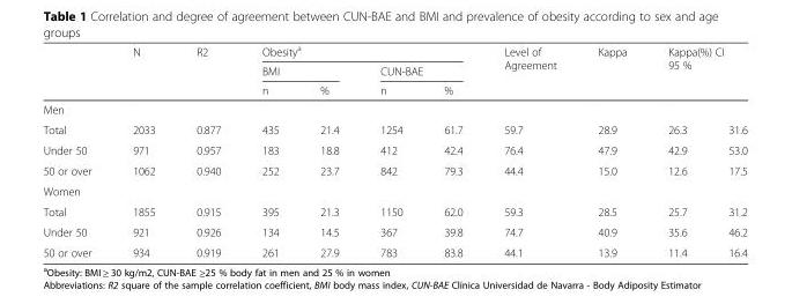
<table><thead><tr><td rowspan="3"></td><td rowspan="3">N</td><td rowspan="3">R2</td><td colspan="4">Obesity<sup>a</sup></td><td rowspan="3">Level of Agreement</td><td rowspan="3">Kappa</td><td rowspan="3" colspan="2">Kappa(%) CI 95 %</td></tr><tr><td colspan="2">BMI</td><td colspan="2">CUN-BAE</td></tr><tr><td>n</td><td>%</td><td>n</td><td>%</td></tr><tr><td colspan="11">Men</td></tr><tr><td>Total</td><td>2033</td><td>0.877</td><td>435</td><td>21.4</td><td>1254</td><td>61.7</td><td>59.7</td><td>28.9</td><td>26.3</td><td>31.6</td></tr></thead><tbody><tr><td>Under 50</td><td>971</td><td>0.957</td><td>183</td><td>18.8</td><td>412</td><td>42.4</td><td>76.4</td><td>47.9</td><td>42.9</td><td>53.0</td></tr><tr><td>50 or over</td><td>1062</td><td>0.940</td><td>252</td><td>23.7</td><td>842</td><td>79.3</td><td>44.4</td><td>15.0</td><td>12.6</td><td>17.5</td></tr><tr><td colspan="11">Women</td></tr><tr><td>Total</td><td>1855</td><td>0.915</td><td>395</td><td>21.3</td><td>1150</td><td>62.0</td><td>59.3</td><td>28.5</td><td>25.7</td><td>31.2</td></tr><tr><td>Under 50</td><td>921</td><td>0.926</td><td>134</td><td>14.5</td><td>367</td><td>39.8</td><td>74.7</td><td>40.9</td><td>35.6</td><td>46.2</td></tr><tr><td>50 or over</td><td>934</td><td>0.919</td><td>261</td><td>27.9</td><td>783</td><td>83.8</td><td>44.1</td><td>13.9</td><td>11.4</td><td>16.4</td></tr></tbody></table>